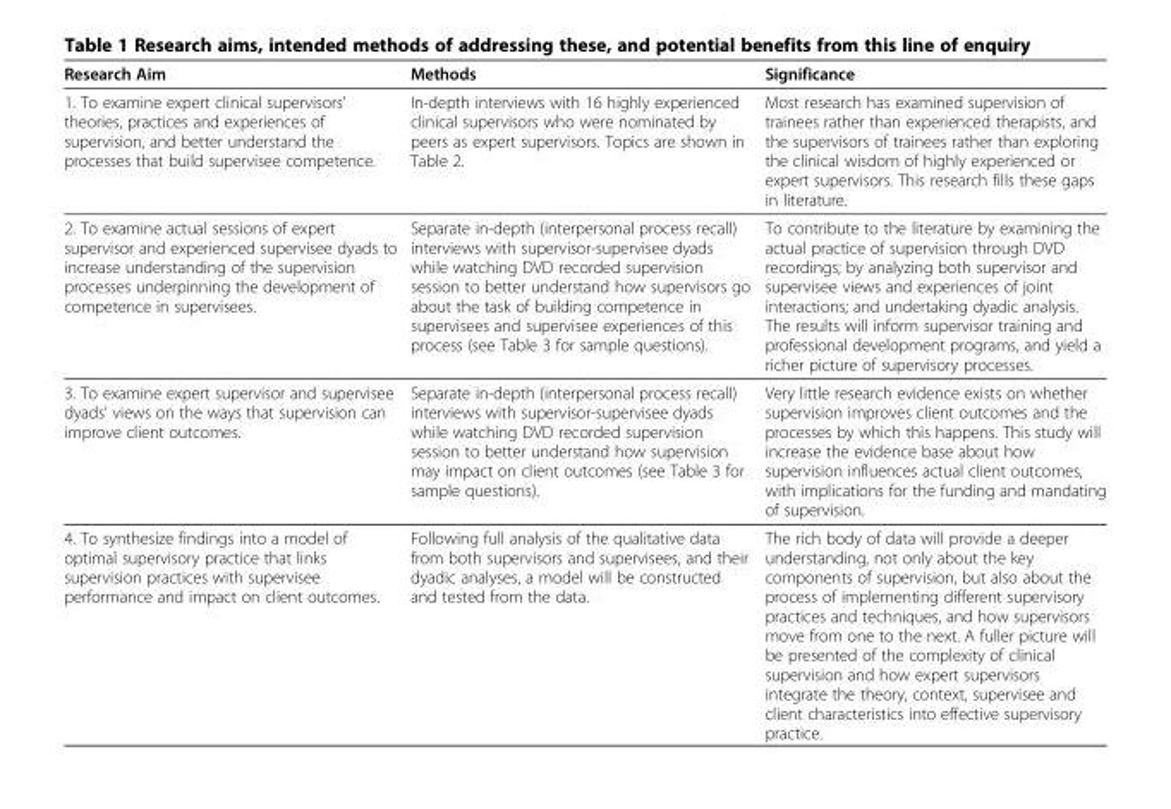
<table><thead><tr><td>Research Aim</td><td>Methods</td><td>Significance</td></tr></thead><tbody><tr><td>1. To examine expert clinical supervisors’ theories, practices and experiences of supervision, and better understand the processes that build supervisee competence.</td><td>In-depth interviews with 16 highly experienced clinical supervisors who were nominated by peers as expert supervisors. Topics are shown in Table 2.</td><td>Most research has examined supervision of trainees rather than experienced therapists, and the supervisors of trainees rather than exploring the clinical wisdom of highly experienced or expert supervisors. This research fills these gaps in literature.</td></tr><tr><td>2. To examine actual sessions of expert supervisor and experienced supervisee dyads to increase understanding of the supervision processes underpinning the development of competence in supervisees.</td><td>Separate in-depth (interpersonal process recall) interviews with supervisor-supervisee dyads while watching DVD recorded supervision session to better understand how supervisors go about the task of building competence in supervisees and supervisee experiences of this process (see Table 3 for sample questions).</td><td>To contribute to the literature by examining the actual practice of supervision through DVD recordings; by analyzing both supervisor and supervisee views and experiences of joint interactions; and undertaking dyadic analysis. The results will inform supervisor training and professional development programs, and yield a richer picture of supervisory processes.</td></tr><tr><td>3. To examine expert supervisor and supervisee dyads’ views on the ways that supervision can improve client outcomes.</td><td>Separate in-depth (interpersonal process recall) interviews with supervisor-supervisee dyads while watching DVD recorded supervision session to better understand how supervision may impact on client outcomes (see Table 3 for sample questions).</td><td>Very little research evidence exists on whether supervision improves client outcomes and the processes by which this happens. This study will increase the evidence base about how supervision influences actual client outcomes, with implications for the funding and mandating of supervision.</td></tr><tr><td>4. To synthesize findings into a model of optimal supervisory practice that links supervision practices with supervisee performance and impact on client outcomes.</td><td>Following full analysis of the qualitative data from both supervisors and supervisees, and their dyadic analyses, a model will be constructed and tested from the data.</td><td>The rich body of data will provide a deeper understanding, not only about the key components of supervision, but also about the process of implementing different supervisory practices and techniques, and how supervisors move from one to the next. A fuller picture will be presented of the complexity of clinical supervision and how expert supervisors integrate the theory, context, supervisee and client characteristics into effective supervisory practice.</td></tr></tbody></table>